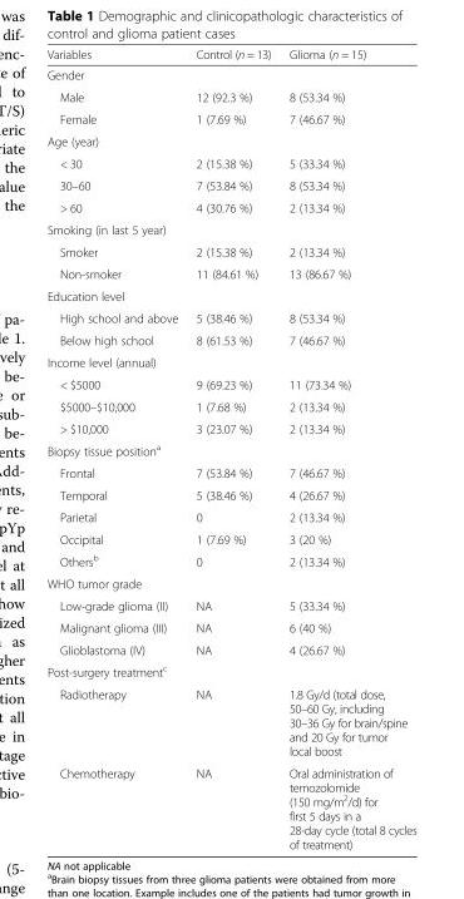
<table><thead><tr><td>Variables</td><td>Control (n = 13)</td><td>Glioma (n = 15)</td></tr></thead><tbody><tr><td colspan="3">Gender</td></tr><tr><td>Male</td><td>12 (92.3 %)</td><td>8 (53.34 %)</td></tr><tr><td>Female</td><td>1 (7.69 %)</td><td>7 (46.67 %)</td></tr><tr><td colspan="3">Age (year)</td></tr><tr><td>&lt; 30</td><td>2 (15.38 %)</td><td>5 (33.34 %)</td></tr><tr><td>30–60</td><td>7 (53.84 %)</td><td>8 (53.34 %)</td></tr><tr><td>&gt; 60</td><td>4 (30.76 %)</td><td>2 (13.34 %)</td></tr><tr><td colspan="3">Smoking (in last 5 year)</td></tr><tr><td>Smoker</td><td>2 (15.38 %)</td><td>2 (13.34 %)</td></tr><tr><td>Non-smoker</td><td>11 (84.61 %)</td><td>13 (86.67 %)</td></tr><tr><td colspan="3">Education level</td></tr><tr><td>High school and above</td><td>5 (38.46 %)</td><td>8 (53.34 %)</td></tr><tr><td>Below high school</td><td>8 (61.53 %)</td><td>7 (46.67 %)</td></tr><tr><td colspan="3">Income level (annual)</td></tr><tr><td>&lt; $5000</td><td>9 (69.23 %)</td><td>11 (73.34 %)</td></tr><tr><td>$5000–$10,000</td><td>1 (7.68 %)</td><td>2 (13.34 %)</td></tr><tr><td>&gt; $10,000</td><td>3 (23.07 %)</td><td>2 (13.34 %)</td></tr><tr><td colspan="3">Biopsy tissue position<sup>a</sup></td></tr><tr><td>Frontal</td><td>7 (53.84 %)</td><td>7 (46.67 %)</td></tr><tr><td>Temporal</td><td>5 (38.46 %)</td><td>4 (26.67 %)</td></tr><tr><td>Parietal</td><td>0</td><td>2 (13.34 %)</td></tr><tr><td>Occipital</td><td>1 (7.69 %)</td><td>3 (20 %)</td></tr><tr><td>Others<sup>b</sup></td><td>0</td><td>2 (13.34 %)</td></tr><tr><td colspan="3">WHO tumor grade</td></tr><tr><td>Low-grade glioma (II)</td><td>NA</td><td>5 (33.34 %)</td></tr><tr><td>Malignant glioma (III)</td><td>NA</td><td>6 (40 %)</td></tr><tr><td>Glioblastoma (IV)</td><td>NA</td><td>4 (26.67 %)</td></tr><tr><td colspan="3">Post-surgery treatment<sup>c</sup></td></tr><tr><td>Radiotherapy</td><td>NA</td><td>1.8 Gy/d (total dose, 50–60 Gy, including 30–36 Gy for brain/spine and 20 Gy for tumor local boost</td></tr><tr><td>Chemotherapy</td><td>NA</td><td>Oral administration of temozolomide (150 mg/m<sup>2</sup>/d) for first 5 days in a 28-day cycle (total 8 cycles of treatment)</td></tr></tbody></table>